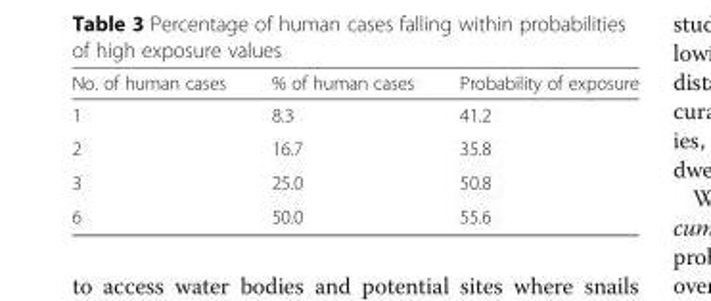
<table><thead><tr><td>No. of human cases</td><td>% of human cases</td><td>Probability of exposure</td></tr></thead><tbody><tr><td>1</td><td>8.3</td><td>41.2</td></tr><tr><td>2</td><td>16.7</td><td>35.8</td></tr><tr><td>3</td><td>25.0</td><td>50.8</td></tr><tr><td>6</td><td>50.0</td><td>55.6</td></tr></tbody></table>